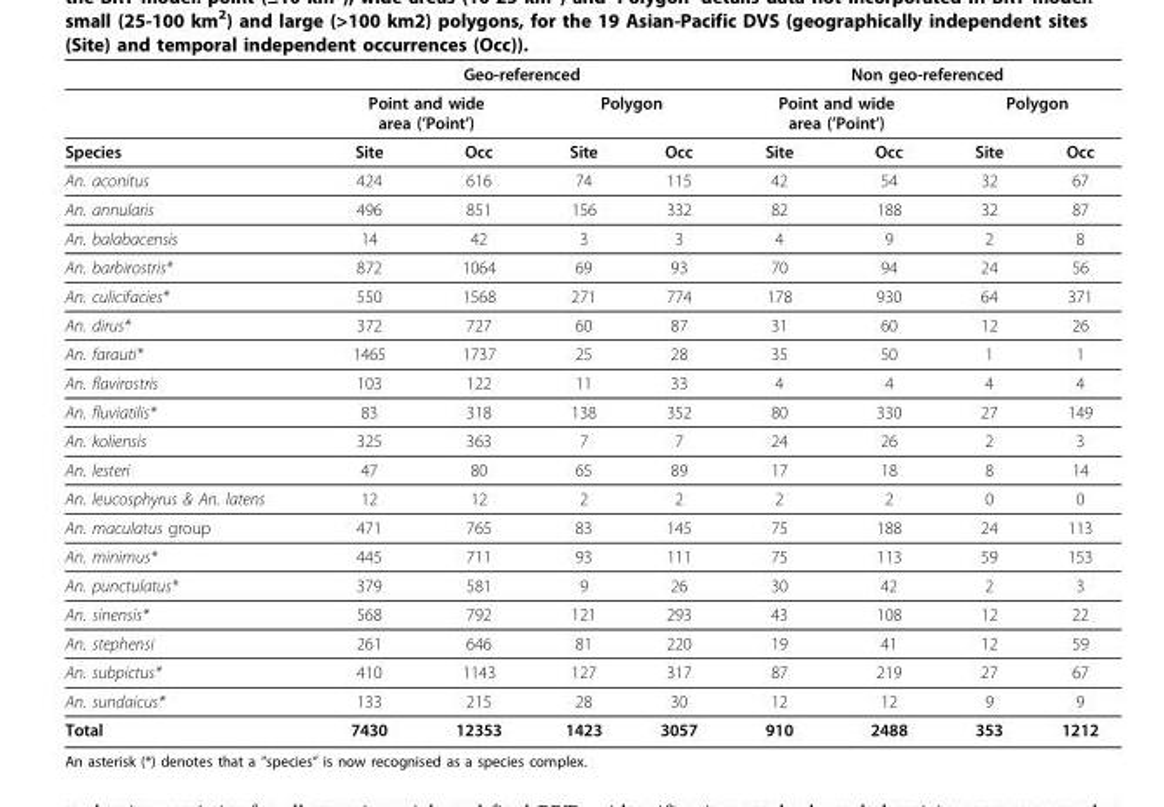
<table><thead><tr><td rowspan="3">Species</td><td colspan="4">Geo-referenced</td><td colspan="4">Non geo-referenced</td></tr><tr><td colspan="2">Point and wide area (’Point’)</td><td colspan="2">Polygon</td><td colspan="2">Point and wide area (’Point’)</td><td colspan="2">Polygon</td></tr><tr><td>Site</td><td>Occ</td><td>Site</td><td>Occ</td><td>Site</td><td>Occ</td><td>Site</td><td>Occ</td></tr></thead><tbody><tr><td>An. aconitus</td><td>424</td><td>616</td><td>74</td><td>115</td><td>42</td><td>54</td><td>32</td><td>67</td></tr><tr><td>An. annularis</td><td>496</td><td>851</td><td>156</td><td>332</td><td>82</td><td>188</td><td>32</td><td>87</td></tr><tr><td>An. balabacensis</td><td>14</td><td>42</td><td>3</td><td>3</td><td>4</td><td>9</td><td>2</td><td>8</td></tr><tr><td>An. barbirostris*</td><td>872</td><td>1064</td><td>69</td><td>93</td><td>70</td><td>94</td><td>24</td><td>56</td></tr><tr><td>An. culicifacies*</td><td>550</td><td>1568</td><td>271</td><td>774</td><td>178</td><td>930</td><td>64</td><td>371</td></tr><tr><td>An. dirus*</td><td>372</td><td>727</td><td>60</td><td>87</td><td>31</td><td>60</td><td>12</td><td>26</td></tr><tr><td>An. farauti*</td><td>1465</td><td>1737</td><td>25</td><td>28</td><td>35</td><td>50</td><td>1</td><td>1</td></tr><tr><td>An. flavirostris</td><td>103</td><td>122</td><td>11</td><td>33</td><td>4</td><td>4</td><td>4</td><td>4</td></tr><tr><td>An. fluviatilis*</td><td>83</td><td>318</td><td>138</td><td>352</td><td>80</td><td>330</td><td>27</td><td>149</td></tr><tr><td>An. koliensis</td><td>325</td><td>363</td><td>7</td><td>7</td><td>24</td><td>26</td><td>2</td><td>3</td></tr><tr><td>An. lesteri</td><td>47</td><td>80</td><td>65</td><td>89</td><td>17</td><td>18</td><td>8</td><td>14</td></tr><tr><td>An. leucosphyrus &amp; An. latens</td><td>12</td><td>12</td><td>2</td><td>2</td><td>2</td><td>2</td><td>0</td><td>0</td></tr><tr><td>An. maculatus group</td><td>471</td><td>765</td><td>83</td><td>145</td><td>75</td><td>188</td><td>24</td><td>113</td></tr><tr><td>An. minimus*</td><td>445</td><td>711</td><td>93</td><td>111</td><td>75</td><td>113</td><td>59</td><td>153</td></tr><tr><td>An. punctulatus*</td><td>379</td><td>581</td><td>9</td><td>26</td><td>30</td><td>42</td><td>2</td><td>3</td></tr><tr><td>An. sinensis*</td><td>568</td><td>792</td><td>121</td><td>293</td><td>43</td><td>108</td><td>12</td><td>22</td></tr><tr><td>An. stephensi</td><td>261</td><td>646</td><td>81</td><td>220</td><td>19</td><td>41</td><td>12</td><td>59</td></tr><tr><td>An. subpictus*</td><td>410</td><td>1143</td><td>127</td><td>317</td><td>87</td><td>219</td><td>27</td><td>67</td></tr><tr><td>An. sundaicus*</td><td>133</td><td>215</td><td>28</td><td>30</td><td>12</td><td>12</td><td>9</td><td>9</td></tr><tr><td>Total</td><td>7430</td><td>12353</td><td>1423</td><td>3057</td><td>910</td><td>2488</td><td>353</td><td>1212</td></tr></tbody></table>